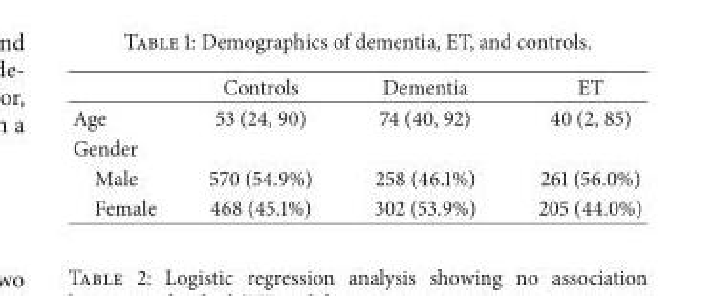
<table><thead><tr><td></td><td>Controls</td><td>Dementia</td><td>ET</td></tr></thead><tbody><tr><td>Age</td><td>53 (24, 90)</td><td>74 (40, 92)</td><td>40 (2, 85)</td></tr><tr><td colspan="4">Gender</td></tr><tr><td>Male</td><td>570 (54.9%)</td><td>258 (46.1%)</td><td>261 (56.0%)</td></tr><tr><td>Female</td><td>468 (45.1%)</td><td>302 (53.9%)</td><td>205 (44.0%)</td></tr></tbody></table>